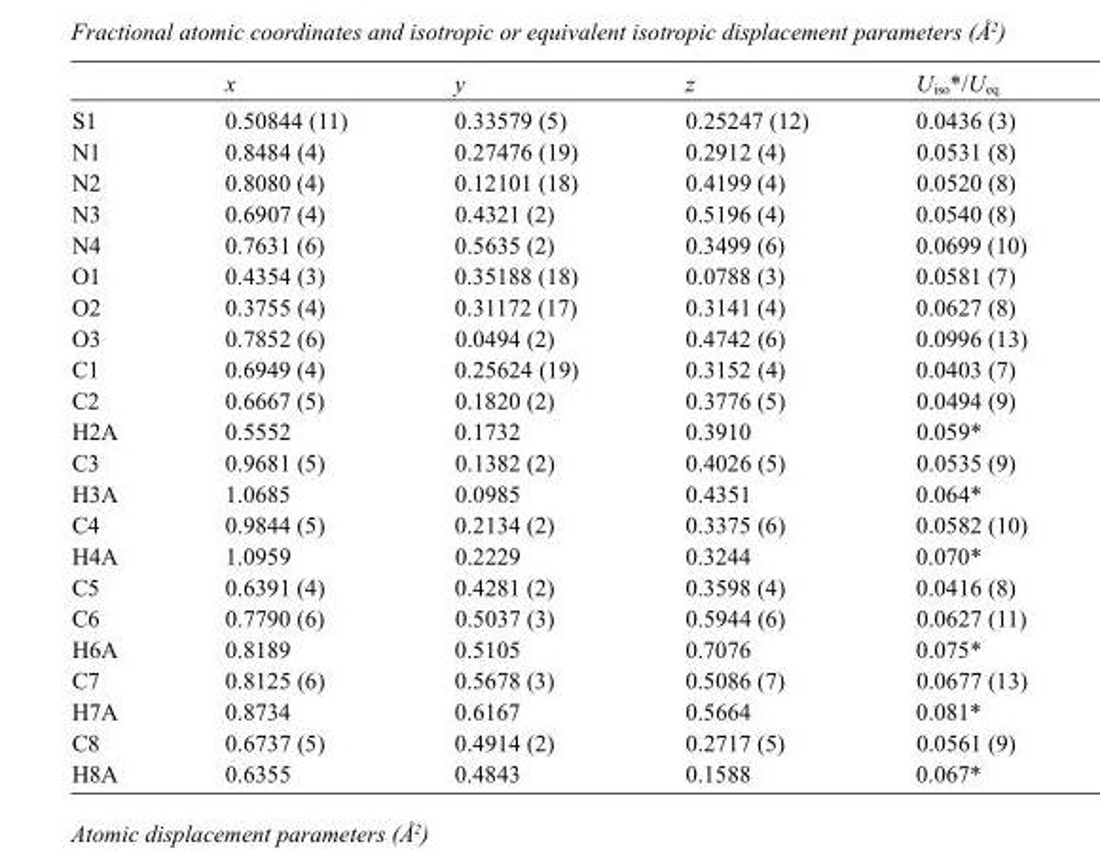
<table><thead><tr><td></td><td>x</td><td>y</td><td>z</td><td>U<sub>iso</sub>*/U<sub>eq</sub></td></tr></thead><tbody><tr><td>S1</td><td>0.50844 (11)</td><td>0.33579 (5)</td><td>0.25247 (12)</td><td>0.0436 (3)</td></tr><tr><td>N1</td><td>0.8484 (4)</td><td>0.27476 (19)</td><td>0.2912 (4)</td><td>0.0531 (8)</td></tr><tr><td>N2</td><td>0.8080 (4)</td><td>0.12101 (18)</td><td>0.4199 (4)</td><td>0.0520 (8)</td></tr><tr><td>N3</td><td>0.6907 (4)</td><td>0.4321 (2)</td><td>0.5196 (4)</td><td>0.0540 (8)</td></tr><tr><td>N4</td><td>0.7631 (6)</td><td>0.5635 (2)</td><td>0.3499 (6)</td><td>0.0699 (10)</td></tr><tr><td>O1</td><td>0.4354 (3)</td><td>0.35188 (18)</td><td>0.0788 (3)</td><td>0.0581 (7)</td></tr><tr><td>O2</td><td>0.3755 (4)</td><td>0.31172 (17)</td><td>0.3141 (4)</td><td>0.0627 (8)</td></tr><tr><td>O3</td><td>0.7852 (6)</td><td>0.0494 (2)</td><td>0.4742 (6)</td><td>0.0996 (13)</td></tr><tr><td>C1</td><td>0.6949 (4)</td><td>0.25624 (19)</td><td>0.3152 (4)</td><td>0.0403 (7)</td></tr><tr><td>C2</td><td>0.6667 (5)</td><td>0.1820 (2)</td><td>0.3776 (5)</td><td>0.0494 (9)</td></tr><tr><td>H2A</td><td>0.5552</td><td>0.1732</td><td>0.3910</td><td>0.059*</td></tr><tr><td>C3</td><td>0.9681 (5)</td><td>0.1382 (2)</td><td>0.4026 (5)</td><td>0.0535 (9)</td></tr><tr><td>H3A</td><td>1.0685</td><td>0.0985</td><td>0.4351</td><td>0.064*</td></tr><tr><td>C4</td><td>0.9844 (5)</td><td>0.2134 (2)</td><td>0.3375 (6)</td><td>0.0582 (10)</td></tr><tr><td>H4A</td><td>1.0959</td><td>0.2229</td><td>0.3244</td><td>0.070*</td></tr><tr><td>C5</td><td>0.6391 (4)</td><td>0.4281 (2)</td><td>0.3598 (4)</td><td>0.0416 (8)</td></tr><tr><td>C6</td><td>0.7790 (6)</td><td>0.5037 (3)</td><td>0.5944 (6)</td><td>0.0627 (11)</td></tr><tr><td>H6A</td><td>0.8189</td><td>0.5105</td><td>0.7076</td><td>0.075*</td></tr><tr><td>C7</td><td>0.8125 (6)</td><td>0.5678 (3)</td><td>0.5086 (7)</td><td>0.0677 (13)</td></tr><tr><td>H7A</td><td>0.8734</td><td>0.6167</td><td>0.5664</td><td>0.081*</td></tr><tr><td>C8</td><td>0.6737 (5)</td><td>0.4914 (2)</td><td>0.2717 (5)</td><td>0.0561 (9)</td></tr><tr><td>H8A</td><td>0.6355</td><td>0.4843</td><td>0.1588</td><td>0.067*</td></tr></tbody></table>